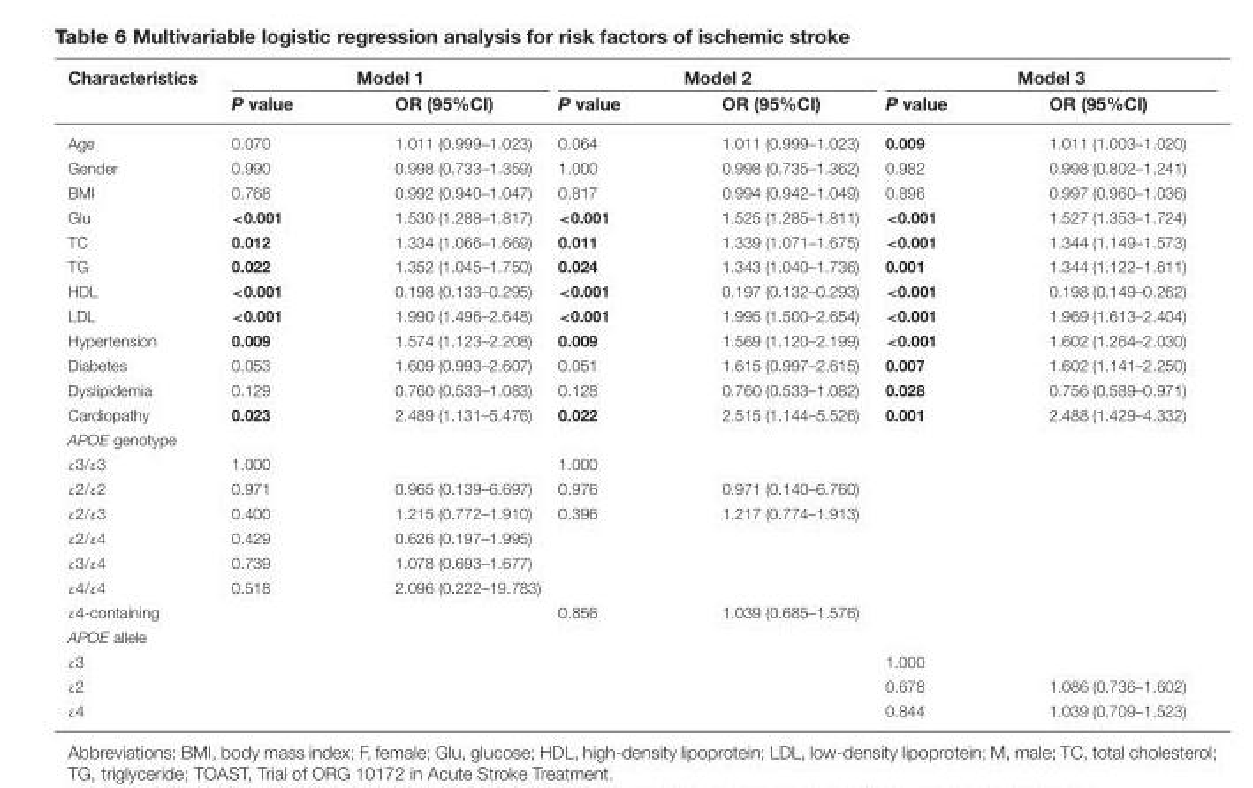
<table><thead><tr><td rowspan="2">Characteristics</td><td colspan="2">Model 1</td><td colspan="2">Model 2</td><td colspan="2">Model 3</td></tr><tr><td>P value</td><td>OR (95%CI)</td><td>P value</td><td>OR (95%CI)</td><td>P value</td><td>OR (95%CI)</td></tr></thead><tbody><tr><td>Age</td><td>0.070</td><td>1.011 (0.999–1.023)</td><td>0.064</td><td>1.011 (0.999–1.023)</td><td>0.009</td><td>1.011 (1.003–1.020)</td></tr><tr><td>Gender</td><td>0.990</td><td>0.998 (0.733–1.359)</td><td>1.000</td><td>0.998 (0.735–1.362)</td><td>0.982</td><td>0.998 (0.802–1.241)</td></tr><tr><td>BMI</td><td>0.768</td><td>0.992 (0.940–1.047)</td><td>0.817</td><td>0.994 (0.942–1.049)</td><td>0.896</td><td>0.997 (0.960–1.036)</td></tr><tr><td>Glu</td><td>&lt;0.001</td><td>1.530 (1.288–1.817)</td><td>&lt;0.001</td><td>1.525 (1.285–1.811)</td><td>&lt;0.001</td><td>1.527 (1.353–1.724)</td></tr><tr><td>TC</td><td>0.012</td><td>1.334 (1.066–1.669)</td><td>0.011</td><td>1.339 (1.071–1.675)</td><td>&lt;0.001</td><td>1.344 (1.149–1.573)</td></tr><tr><td>TG</td><td>0.022</td><td>1.352 (1.045–1.750)</td><td>0.024</td><td>1.343 (1.040–1.736)</td><td>0.001</td><td>1.344 (1.122–1.611)</td></tr><tr><td>HDL</td><td>&lt;0.001</td><td>0.198 (0.133–0.295)</td><td>&lt;0.001</td><td>0.197 (0.132–0.293)</td><td>&lt;0.001</td><td>0.198 (0.149–0.262)</td></tr><tr><td>LDL</td><td>&lt;0.001</td><td>1.990 (1.496–2.648)</td><td>&lt;0.001</td><td>1.995 (1.500–2.654)</td><td>&lt;0.001</td><td>1.969 (1.613–2.404)</td></tr><tr><td>Hypertension</td><td>0.009</td><td>1.574 (1.123–2.208)</td><td>0.009</td><td>1.569 (1.120–2.199)</td><td>&lt;0.001</td><td>1.602 (1.264–2.030)</td></tr><tr><td>Diabetes</td><td>0.053</td><td>1.609 (0.993–2.607)</td><td>0.051</td><td>1.615 (0.997–2.615)</td><td>0.007</td><td>1.602 (1.141–2.250)</td></tr><tr><td>Dyslipidemia</td><td>0.129</td><td>0.760 (0.533–1.083)</td><td>0.128</td><td>0.760 (0.533–1.082)</td><td>0.028</td><td>0.756 (0.589–0.971)</td></tr><tr><td>Cardiopathy</td><td>0.023</td><td>2.489 (1.131–5.476)</td><td>0.022</td><td>2.515 (1.144–5.526)</td><td>0.001</td><td>2.488 (1.429–4.332)</td></tr><tr><td colspan="7">APOE genotype</td></tr><tr><td>ε3/ε3</td><td>1.000</td><td></td><td>1.000</td><td></td><td></td><td></td></tr><tr><td>ε2/ε2</td><td>0.971</td><td>0.965 (0.139–6.697)</td><td>0.976</td><td>0.971 (0.140–6.760)</td><td></td><td></td></tr><tr><td>ε2/ε3</td><td>0.400</td><td>1.215 (0.772–1.910)</td><td>0.396</td><td>1.217 (0.774–1.913)</td><td></td><td></td></tr><tr><td>ε2/ε4</td><td>0.429</td><td>0.626 (0.197–1.995)</td><td></td><td></td><td></td><td></td></tr><tr><td>ε3/ε4</td><td>0.739</td><td>1.078 (0.693–1.677)</td><td></td><td></td><td></td><td></td></tr><tr><td>ε4/ε4</td><td>0.518</td><td>2.096 (0.222–19.783)</td><td></td><td></td><td></td><td></td></tr><tr><td>ε4-containing</td><td></td><td></td><td>0.856</td><td>1.039 (0.685–1.576)</td><td></td><td></td></tr><tr><td colspan="7">APOE allele</td></tr><tr><td>ε3</td><td></td><td></td><td></td><td></td><td>1.000</td><td></td></tr><tr><td>ε2</td><td></td><td></td><td></td><td></td><td>0.678</td><td>1.086 (0.736–1.602)</td></tr><tr><td>ε4</td><td></td><td></td><td></td><td></td><td>0.844</td><td>1.039 (0.709–1.523)</td></tr></tbody></table>